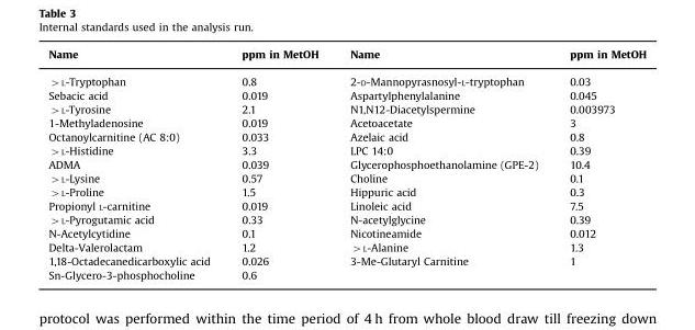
<table><thead><tr><td>Name</td><td>ppm in MetOH</td><td>Name</td><td>ppm in MetOH</td></tr></thead><tbody><tr><td>&gt;L-Tryptophan</td><td>0.8</td><td>2-D-Mannopyrasnosyl-L-tryptophan</td><td>0.03</td></tr><tr><td>Sebacic acid</td><td>0.019</td><td>Aspartylphenylalanine</td><td>0.045</td></tr><tr><td>&gt;L-Tyrosine</td><td>2.1</td><td>N1,N12-Diacetylspermine</td><td>0.003973</td></tr><tr><td>1-Methyladenosine</td><td>0.019</td><td>Acetoacetate</td><td>3</td></tr><tr><td>Octanoylcarnitine (AC 8:0)</td><td>0.033</td><td>Azelaic acid</td><td>0.8</td></tr><tr><td>&gt;L-Histidine</td><td>3.3</td><td>LPC 14:0</td><td>0.39</td></tr><tr><td>ADMA</td><td>0.039</td><td>Glycerophosphoethanolamine (GPE-2)</td><td>10.4</td></tr><tr><td>&gt;L-Lysine</td><td>0.57</td><td>Choline</td><td>0.1</td></tr><tr><td>&gt;L-Proline</td><td>1.5</td><td>Hippuric acid</td><td>0.3</td></tr><tr><td>Propionyl L-carnitine</td><td>0.019</td><td>Linoleic acid</td><td>7.5</td></tr><tr><td>&gt;L-Pyrogutamic acid</td><td>0.33</td><td>N-acetylglycine</td><td>0.39</td></tr><tr><td>N-Acetylcytidine</td><td>0.1</td><td>Nicotineamide</td><td>0.012</td></tr><tr><td>Delta-Valerolactam</td><td>1.2</td><td>&gt;L-Alanine</td><td>1.3</td></tr><tr><td>1,18-Octadecanedicarboxylic acid</td><td>0.026</td><td>3-Me-Glutaryl Carnitine</td><td>1</td></tr><tr><td>Sn-Glycero-3-phosphocholine</td><td>0.6</td><td></td><td></td></tr></tbody></table>